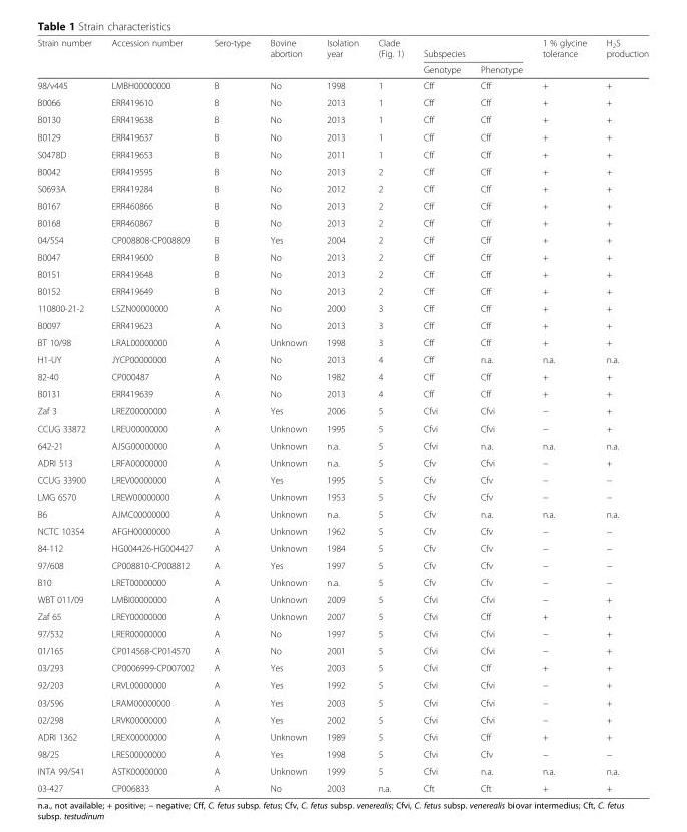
<table><thead><tr><td rowspan="2">Strain number</td><td rowspan="2">Accession number</td><td rowspan="2">Sero-type</td><td rowspan="2">Bovine abortion</td><td rowspan="2">Isolation year</td><td rowspan="2">Clade (Fig. 1)</td><td colspan="2">Subspecies</td><td rowspan="2">1 % glycine tolerance</td><td rowspan="2">H<sub>2</sub>S production</td></tr><tr><td>Genotype</td><td>Phenotype</td></tr></thead><tbody><tr><td>98/v445</td><td>LMBH00000000</td><td>B</td><td>No</td><td>1998</td><td>1</td><td>Cff</td><td>Cff</td><td>+</td><td>+</td></tr><tr><td>B0066</td><td>ERR419610</td><td>B</td><td>No</td><td>2013</td><td>1</td><td>Cff</td><td>Cff</td><td>+</td><td>+</td></tr><tr><td>B0130</td><td>ERR419638</td><td>B</td><td>No</td><td>2013</td><td>1</td><td>Cff</td><td>Cff</td><td>+</td><td>+</td></tr><tr><td>B0129</td><td>ERR419637</td><td>B</td><td>No</td><td>2013</td><td>1</td><td>Cff</td><td>Cff</td><td>+</td><td>+</td></tr><tr><td>S0478D</td><td>ERR419653</td><td>B</td><td>No</td><td>2011</td><td>1</td><td>Cff</td><td>Cff</td><td>+</td><td>+</td></tr><tr><td>B0042</td><td>ERR419595</td><td>B</td><td>No</td><td>2013</td><td>2</td><td>Cff</td><td>Cff</td><td>+</td><td>+</td></tr><tr><td>S0693A</td><td>ERR419284</td><td>B</td><td>No</td><td>2012</td><td>2</td><td>Cff</td><td>Cff</td><td>+</td><td>+</td></tr><tr><td>B0167</td><td>ERR460866</td><td>B</td><td>No</td><td>2013</td><td>2</td><td>Cff</td><td>Cff</td><td>+</td><td>+</td></tr><tr><td>B0168</td><td>ERR460867</td><td>B</td><td>No</td><td>2013</td><td>2</td><td>Cff</td><td>Cff</td><td>+</td><td>+</td></tr><tr><td>04/554</td><td>CP008808-CP008809</td><td>B</td><td>Yes</td><td>2004</td><td>2</td><td>Cff</td><td>Cff</td><td>+</td><td>+</td></tr><tr><td>B0047</td><td>ERR419600</td><td>B</td><td>No</td><td>2013</td><td>2</td><td>Cff</td><td>Cff</td><td>+</td><td>+</td></tr><tr><td>B0151</td><td>ERR419648</td><td>B</td><td>No</td><td>2013</td><td>2</td><td>Cff</td><td>Cff</td><td>+</td><td>+</td></tr><tr><td>B0152</td><td>ERR419649</td><td>B</td><td>No</td><td>2013</td><td>2</td><td>Cff</td><td>Cff</td><td>+</td><td>+</td></tr><tr><td>110800-21-2</td><td>LSZN00000000</td><td>A</td><td>No</td><td>2000</td><td>3</td><td>Cff</td><td>Cff</td><td>+</td><td>+</td></tr><tr><td>B0097</td><td>ERR419623</td><td>A</td><td>No</td><td>2013</td><td>3</td><td>Cff</td><td>Cff</td><td>+</td><td>+</td></tr><tr><td>BT 10/98</td><td>LRAL00000000</td><td>A</td><td>Unknown</td><td>1998</td><td>3</td><td>Cff</td><td>Cff</td><td>+</td><td>+</td></tr><tr><td>H1-UY</td><td>JYCP00000000</td><td>A</td><td>No</td><td>2013</td><td>4</td><td>Cff</td><td>n.a.</td><td>n.a.</td><td>n.a.</td></tr><tr><td>82-40</td><td>CP000487</td><td>A</td><td>No</td><td>1982</td><td>4</td><td>Cff</td><td>Cff</td><td>+</td><td>+</td></tr><tr><td>B0131</td><td>ERR419639</td><td>A</td><td>No</td><td>2013</td><td>4</td><td>Cff</td><td>Cff</td><td>+</td><td>+</td></tr><tr><td>Zaf 3</td><td>LREZ00000000</td><td>A</td><td>Yes</td><td>2006</td><td>5</td><td>Cfvi</td><td>Cfvi</td><td>−</td><td>+</td></tr><tr><td>CCUG 33872</td><td>LREU00000000</td><td>A</td><td>Unknown</td><td>1995</td><td>5</td><td>Cfvi</td><td>Cfvi</td><td>−</td><td>+</td></tr><tr><td>642-21</td><td>AJSG00000000</td><td>A</td><td>Unknown</td><td>n.a.</td><td>5</td><td>Cfvi</td><td>n.a.</td><td>n.a.</td><td>n.a.</td></tr><tr><td>ADRI 513</td><td>LRFA00000000</td><td>A</td><td>Unknown</td><td>n.a.</td><td>5</td><td>Cfv</td><td>Cfvi</td><td>−</td><td>+</td></tr><tr><td>CCUG 33900</td><td>LREV00000000</td><td>A</td><td>Yes</td><td>1995</td><td>5</td><td>Cfv</td><td>Cfv</td><td>−</td><td>−</td></tr><tr><td>LMG 6570</td><td>LREW00000000</td><td>A</td><td>Unknown</td><td>1953</td><td>5</td><td>Cfv</td><td>Cfv</td><td>−</td><td>−</td></tr><tr><td>B6</td><td>AJMC00000000</td><td>A</td><td>Unknown</td><td>n.a.</td><td>5</td><td>Cfv</td><td>n.a.</td><td>n.a.</td><td>n.a.</td></tr><tr><td>NCTC 10354</td><td>AFGH00000000</td><td>A</td><td>Unknown</td><td>1962</td><td>5</td><td>Cfv</td><td>Cfv</td><td>−</td><td>−</td></tr><tr><td>84-112</td><td>HG004426-HG004427</td><td>A</td><td>Unknown</td><td>1984</td><td>5</td><td>Cfv</td><td>Cfv</td><td>−</td><td>−</td></tr><tr><td>97/608</td><td>CP008810-CP008812</td><td>A</td><td>Yes</td><td>1997</td><td>5</td><td>Cfv</td><td>Cfv</td><td>−</td><td>−</td></tr><tr><td>B10</td><td>LRET00000000</td><td>A</td><td>Unknown</td><td>n.a.</td><td>5</td><td>Cfv</td><td>Cfv</td><td>−</td><td>−</td></tr><tr><td>WBT 011/09</td><td>LMBI00000000</td><td>A</td><td>Unknown</td><td>2009</td><td>5</td><td>Cfvi</td><td>Cfvi</td><td>−</td><td>+</td></tr><tr><td>Zaf 65</td><td>LREY00000000</td><td>A</td><td>Unknown</td><td>2007</td><td>5</td><td>Cfvi</td><td>Cff</td><td>+</td><td>+</td></tr><tr><td>97/532</td><td>LRER00000000</td><td>A</td><td>No</td><td>1997</td><td>5</td><td>Cfvi</td><td>Cfvi</td><td>−</td><td>+</td></tr><tr><td>01/165</td><td>CP014568-CP014570</td><td>A</td><td>No</td><td>2001</td><td>5</td><td>Cfvi</td><td>Cfvi</td><td>−</td><td>+</td></tr><tr><td>03/293</td><td>CP0006999-CP007002</td><td>A</td><td>Yes</td><td>2003</td><td>5</td><td>Cfvi</td><td>Cff</td><td>+</td><td>+</td></tr><tr><td>92/203</td><td>LRVL00000000</td><td>A</td><td>Yes</td><td>1992</td><td>5</td><td>Cfvi</td><td>Cfvi</td><td>−</td><td>+</td></tr><tr><td>03/596</td><td>LRAM00000000</td><td>A</td><td>Yes</td><td>2003</td><td>5</td><td>Cfvi</td><td>Cfvi</td><td>−</td><td>+</td></tr><tr><td>02/298</td><td>LRVK00000000</td><td>A</td><td>Yes</td><td>2002</td><td>5</td><td>Cfvi</td><td>Cfvi</td><td>−</td><td>+</td></tr><tr><td>ADRI 1362</td><td>LREX00000000</td><td>A</td><td>Unknown</td><td>1989</td><td>5</td><td>Cfvi</td><td>Cff</td><td>+</td><td>+</td></tr><tr><td>98/25</td><td>LRES00000000</td><td>A</td><td>Yes</td><td>1998</td><td>5</td><td>Cfvi</td><td>Cfv</td><td>−</td><td>−</td></tr><tr><td>INTA 99/541</td><td>ASTK00000000</td><td>A</td><td>Unknown</td><td>1999</td><td>5</td><td>Cfvi</td><td>n.a.</td><td>n.a.</td><td>n.a.</td></tr><tr><td>03-427</td><td>CP006833</td><td>A</td><td>No</td><td>2003</td><td>n.a.</td><td>Cft</td><td>Cft</td><td>+</td><td>+</td></tr></tbody></table>